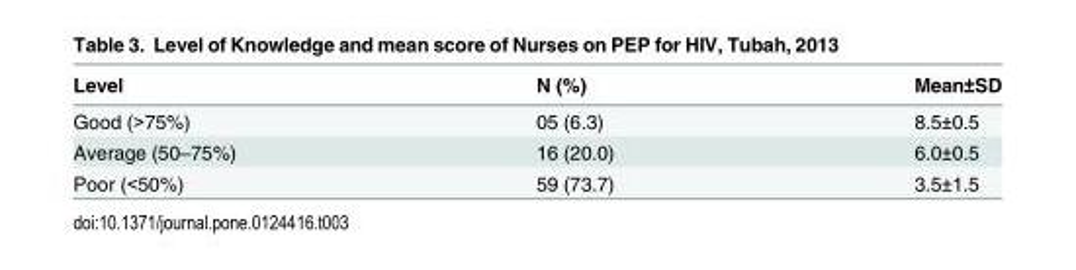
<table><thead><tr><td>Level</td><td>N (%)</td><td>Mean±SD</td></tr></thead><tbody><tr><td>Good (&gt;75%)</td><td>05 (6.3)</td><td>8.5±0.5</td></tr><tr><td>Average (50–75%)</td><td>16 (20.0)</td><td>6.0±0.5</td></tr><tr><td>Poor (&lt;50%)</td><td>59 (73.7)</td><td>3.5±1.5</td></tr></tbody></table>